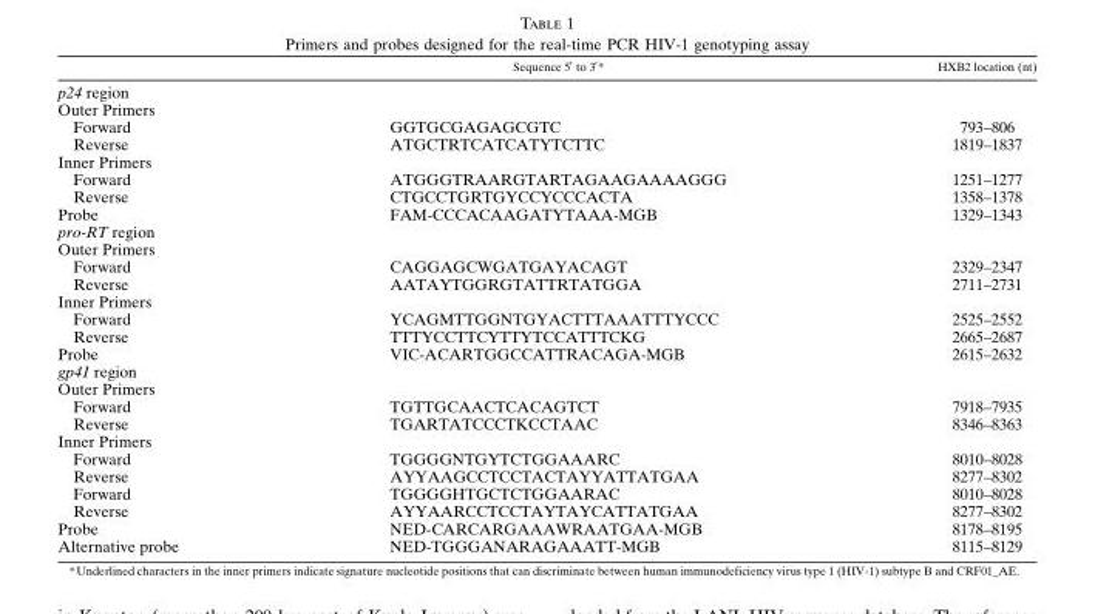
<table><thead><tr><td></td><td>Sequence 5¢ to 3¢*</td><td>HXB2 location (nt)</td></tr></thead><tbody><tr><td colspan="3">p24 region</td></tr><tr><td colspan="3">Outer Primers</td></tr><tr><td>Forward</td><td>GGTGCGAGAGCGTC</td><td>793–806</td></tr><tr><td>Reverse</td><td>ATGCTRTCATCATYTCTTC</td><td>1819–1837</td></tr><tr><td colspan="3">Inner Primers</td></tr><tr><td>Forward</td><td>ATGGGTRAARGTARTAGAAGAAAAGGG</td><td>1251–1277</td></tr><tr><td>Reverse</td><td>CTGCCTGRTGYCCYCCCACTA</td><td>1358–1378</td></tr><tr><td>Probe</td><td>FAM-CCCACAAGATYTAAA-MGB</td><td>1329–1343</td></tr><tr><td colspan="3">pro-RT region</td></tr><tr><td colspan="3">Outer Primers</td></tr><tr><td>Forward</td><td>CAGGAGCWGATGAYACAGT</td><td>2329–2347</td></tr><tr><td>Reverse</td><td>AATAYTGGRGTATTRTATGGA</td><td>2711–2731</td></tr><tr><td colspan="3">Inner Primers</td></tr><tr><td>Forward</td><td>YCAGMTTGGNTGYACTTTAAATTTYCCC</td><td>2525–2552</td></tr><tr><td>Reverse</td><td>TTTYCCTTCYTTYTCCATTTCKG</td><td>2665–2687</td></tr><tr><td>Probe</td><td>VIC-ACARTGGCCATTRACAGA-MGB</td><td>2615–2632</td></tr><tr><td colspan="3">gp41 region</td></tr><tr><td colspan="3">Outer Primers</td></tr><tr><td>Forward</td><td>TGTTGCAACTCACAGTCT</td><td>7918–7935</td></tr><tr><td>Reverse</td><td>TGARTATCCCTKCCTAAC</td><td>8346–8363</td></tr><tr><td colspan="3">Inner Primers</td></tr><tr><td>Forward</td><td>TGGGGNTGYTCTGGAAARC</td><td>8010–8028</td></tr><tr><td>Reverse</td><td>AYYAAGCCTCCTACTAYYATTATGAA</td><td>8277–8302</td></tr><tr><td>Forward</td><td>TGGGGHTGCTCTGGAARAC</td><td>8010–8028</td></tr><tr><td>Reverse</td><td>AYYAARCCTCCTAYTAYCATTATGAA</td><td>8277–8302</td></tr><tr><td>Probe</td><td>NED-CARCARGAAAWRAATGAA-MGB</td><td>8178–8195</td></tr><tr><td>Alternative probe</td><td>NED-TGGGANARAGAAATT-MGB</td><td>8115–8129</td></tr></tbody></table>